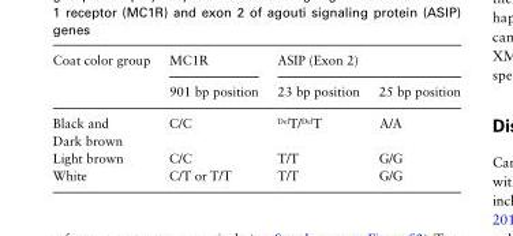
<table><thead><tr><td rowspan="2">Coat color group</td><td rowspan="2">MC1R 901 bp position</td><td colspan="2">ASIP (Exon 2)</td></tr><tr><td>23 bp position</td><td>25 bp position</td></tr></thead><tbody><tr><td>Black and Dark brown</td><td>C/C</td><td><sup>Del</sup>T/<sup>Del</sup>T</td><td>A/A</td></tr><tr><td>Light brown</td><td>C/C</td><td>T/T</td><td>G/G</td></tr><tr><td>White</td><td>C/T or T/T</td><td>T/T</td><td>G/G</td></tr></tbody></table>